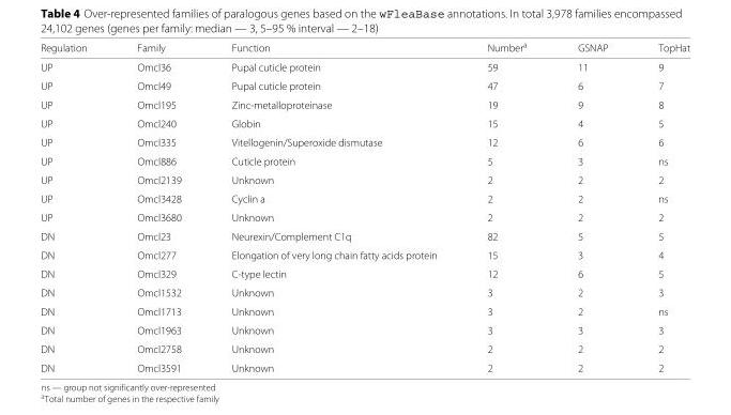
<table><thead><tr><td>Regulation</td><td>Family</td><td>Function</td><td>Number<sup>a</sup></td><td>GSNAP</td><td>TopHat</td></tr></thead><tbody><tr><td>UP</td><td>Omcl36</td><td>Pupal cuticle protein</td><td>59</td><td>11</td><td>9</td></tr><tr><td>UP</td><td>Omcl49</td><td>Pupal cuticle protein</td><td>47</td><td>6</td><td>7</td></tr><tr><td>UP</td><td>Omcl195</td><td>Zinc-metalloproteinase</td><td>19</td><td>9</td><td>8</td></tr><tr><td>UP</td><td>Omcl240</td><td>Globin</td><td>15</td><td>4</td><td>5</td></tr><tr><td>UP</td><td>Omcl335</td><td>Vitellogenin/Superoxide dismutase</td><td>12</td><td>6</td><td>6</td></tr><tr><td>UP</td><td>Omcl886</td><td>Cuticle protein</td><td>5</td><td>3</td><td>ns</td></tr><tr><td>UP</td><td>Omcl2139</td><td>Unknown</td><td>2</td><td>2</td><td>2</td></tr><tr><td>UP</td><td>Omcl3428</td><td>Cyclin a</td><td>2</td><td>2</td><td>ns</td></tr><tr><td>UP</td><td>Omcl3680</td><td>Unknown</td><td>2</td><td>2</td><td>2</td></tr><tr><td>DN</td><td>Omcl23</td><td>Neurexin/Complement C1q</td><td>82</td><td>5</td><td>5</td></tr><tr><td>DN</td><td>Omcl277</td><td>Elongation of very long chain fatty acids protein</td><td>15</td><td>3</td><td>4</td></tr><tr><td>DN</td><td>Omcl329</td><td>C-type lectin</td><td>12</td><td>6</td><td>5</td></tr><tr><td>DN</td><td>Omcl1532</td><td>Unknown</td><td>3</td><td>2</td><td>3</td></tr><tr><td>DN</td><td>Omcl1713</td><td>Unknown</td><td>3</td><td>2</td><td>ns</td></tr><tr><td>DN</td><td>Omcl1963</td><td>Unknown</td><td>3</td><td>3</td><td>3</td></tr><tr><td>DN</td><td>Omcl2758</td><td>Unknown</td><td>2</td><td>2</td><td>2</td></tr><tr><td>DN</td><td>Omcl3591</td><td>Unknown</td><td>2</td><td>2</td><td>2</td></tr></tbody></table>